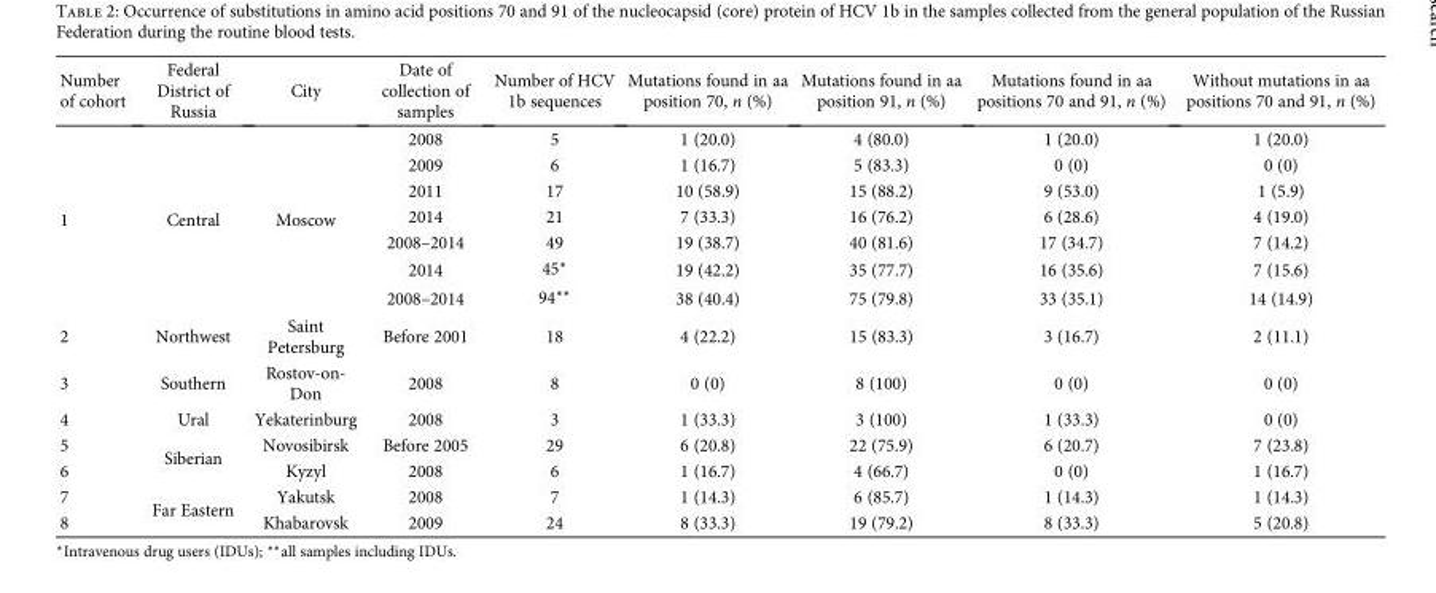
<table><thead><tr><td>Number of cohort</td><td>Federal District of Russia</td><td>City</td><td>Date of collection of samples</td><td>Number of HCV 1b sequences</td><td>Mutations found in aa position 70, n (%)</td><td>Mutations found in aa position 91, n (%)</td><td>Mutations found in aa positions 70 and 91, n (%)</td><td>Without mutations in aa positions 70 and 91, n (%)</td></tr></thead><tbody><tr><td rowspan="7">1</td><td rowspan="7">Central</td><td rowspan="7">Moscow</td><td>2008</td><td>5</td><td>1 (20.0)</td><td>4 (80.0)</td><td>1 (20.0)</td><td>1 (20.0)</td></tr><tr><td>2009</td><td>6</td><td>1 (16.7)</td><td>5 (83.3)</td><td>0 (0)</td><td>0 (0)</td></tr><tr><td>2011</td><td>17</td><td>10 (58.9)</td><td>15 (88.2)</td><td>9 (53.0)</td><td>1 (5.9)</td></tr><tr><td>2014</td><td>21</td><td>7 (33.3)</td><td>16 (76.2)</td><td>6 (28.6)</td><td>4 (19.0)</td></tr><tr><td>2008–2014</td><td>49</td><td>19 (38.7)</td><td>40 (81.6)</td><td>17 (34.7)</td><td>7 (14.2)</td></tr><tr><td>2014</td><td>45∗</td><td>19 (42.2)</td><td>35 (77.7)</td><td>16 (35.6)</td><td>7 (15.6)</td></tr><tr><td>2008–2014</td><td>94∗∗</td><td>38 (40.4)</td><td>75 (79.8)</td><td>33 (35.1)</td><td>14 (14.9)</td></tr><tr><td>2</td><td>Northwest</td><td>Saint Petersburg</td><td>Before 2001</td><td>18</td><td>4 (22.2)</td><td>15 (83.3)</td><td>3 (16.7)</td><td>2 (11.1)</td></tr><tr><td>3</td><td>Southern</td><td>Rostov-on- Don</td><td>2008</td><td>8</td><td>0 (0)</td><td>8 (100)</td><td>0 (0)</td><td>0 (0)</td></tr><tr><td>4</td><td>Ural</td><td>Yekaterinburg</td><td>2008</td><td>3</td><td>1 (33.3)</td><td>3 (100)</td><td>1 (33.3)</td><td>0 (0)</td></tr><tr><td>5</td><td rowspan="2">Siberian</td><td>Novosibirsk</td><td>Before 2005</td><td>29</td><td>6 (20.8)</td><td>22 (75.9)</td><td>6 (20.7)</td><td>7 (23.8)</td></tr><tr><td>6</td><td>Kyzyl</td><td>2008</td><td>6</td><td>1 (16.7)</td><td>4 (66.7)</td><td>0 (0)</td><td>1 (16.7)</td></tr><tr><td>7</td><td rowspan="2">Far Eastern</td><td>Yakutsk</td><td>2008</td><td>7</td><td>1 (14.3)</td><td>6 (85.7)</td><td>1 (14.3)</td><td>1 (14.3)</td></tr><tr><td>8</td><td>Khabarovsk</td><td>2009</td><td>24</td><td>8 (33.3)</td><td>19 (79.2)</td><td>8 (33.3)</td><td>5 (20.8)</td></tr></tbody></table>